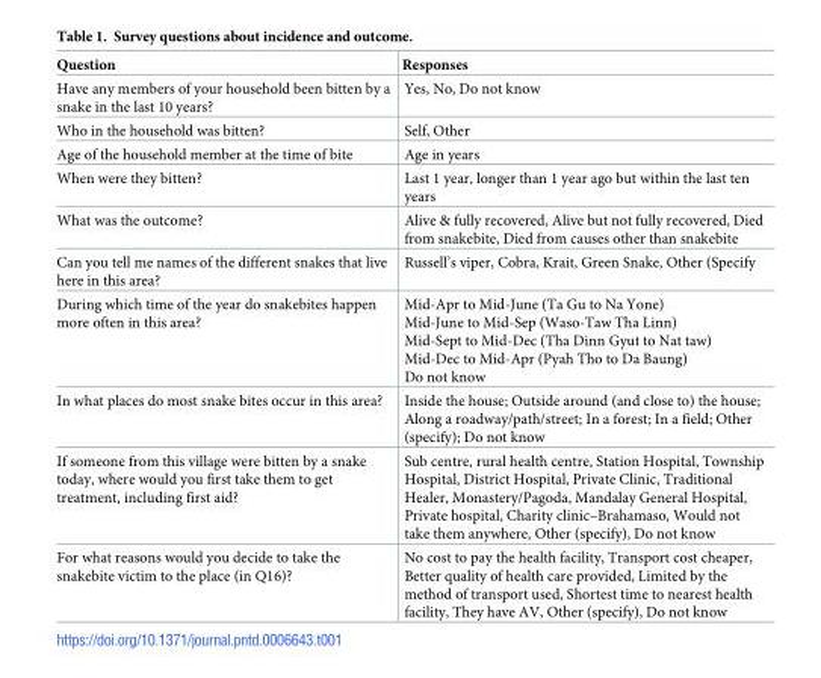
<table><thead><tr><td>Question</td><td>Responses</td></tr></thead><tbody><tr><td>Have any members of your household been bitten by a snake in the last 10 years?</td><td>Yes, No, Do not know</td></tr><tr><td>Who in the household was bitten?</td><td>Self, Other</td></tr><tr><td>Age of the household member at the time of bite</td><td>Age in years</td></tr><tr><td>When were they bitten?</td><td>Last 1 year, longer than 1 year ago but within the last ten years</td></tr><tr><td>What was the outcome?</td><td>Alive &amp; fully recovered, Alive but not fully recovered, Died from snakebite, Died from causes other than snakebite</td></tr><tr><td>Can you tell me names of the different snakes that live here in this area?</td><td>Russell’s viper, Cobra, Krait, Green Snake, Other (Specify</td></tr><tr><td>During which time of the year do snakebites happen more often in this area?</td><td>Mid-Apr to Mid-June (Ta Gu to Na Yone) Mid-June to Mid-Sep (Waso-Taw Tha Linn) Mid-Sept to Mid-Dec (Tha Dinn Gyut to Nat taw) Mid-Dec to Mid-Apr (Pyah Tho to Da Baung) Do not know</td></tr><tr><td>In what places do most snake bites occur in this area?</td><td>Inside the house; Outside around (and close to) the house; Along a roadway/path/street; In a forest; In a field; Other (specify); Do not know</td></tr><tr><td>If someone from this village were bitten by a snake today, where would you first take them to get treatment, including first aid?</td><td>Sub centre, rural health centre, Station Hospital, Township Hospital, District Hospital, Private Clinic, Traditional Healer, Monastery/Pagoda, Mandalay General Hospital, Private hospital, Charity clinic–Brahamaso, Would not take them anywhere, Other (specify), Do not know</td></tr><tr><td>For what reasons would you decide to take the snakebite victim to the place (in Q16)?</td><td>No cost to pay the health facility, Transport cost cheaper, Better quality of health care provided, Limited by the method of transport used, Shortest time to nearest health facility, They have AV, Other (specify), Do not know</td></tr></tbody></table>